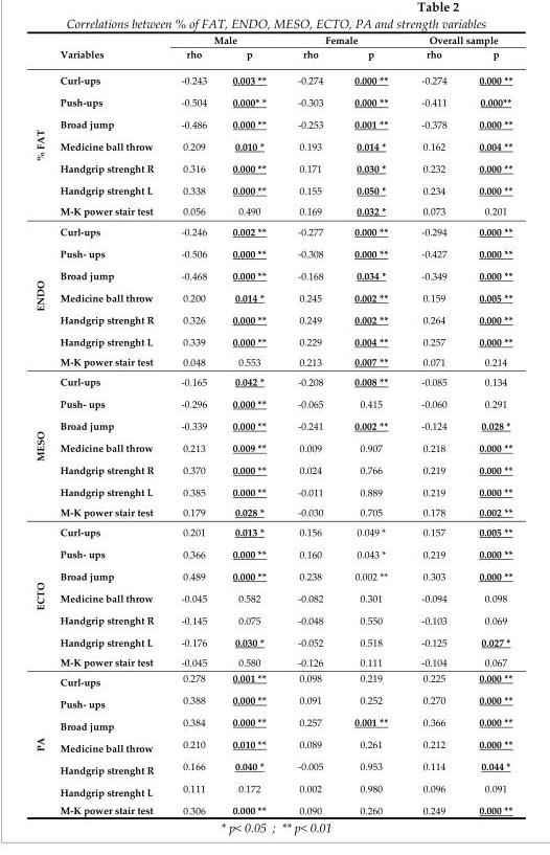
<table><thead><tr><td rowspan="2"></td><td rowspan="2">Variables</td><td colspan="2">Male</td><td colspan="2">Female</td><td colspan="2">Overall sample</td></tr><tr><td>rho</td><td>p</td><td>rho</td><td>p</td><td>rho</td><td>p</td></tr></thead><tbody><tr><td rowspan="7">% FAT</td><td>Curl-ups</td><td>-0.243</td><td>0.003 **</td><td>-0.274</td><td>0.000 **</td><td>-0.274</td><td>0.000 **</td></tr><tr><td>Push-ups</td><td>-0.504</td><td>0.000* *</td><td>-0.303</td><td>0.000 **</td><td>-0.411</td><td>0.000**</td></tr><tr><td>Broad jump</td><td>-0.486</td><td>0.000 **</td><td>-0.253</td><td>0.001 **</td><td>-0.378</td><td>0.000 **</td></tr><tr><td>Medicine ball throw</td><td>0.209</td><td>0.010 *</td><td>0.193</td><td>0.014 *</td><td>0.162</td><td>0.004 **</td></tr><tr><td>Handgrip strenght R</td><td>0.316</td><td>0.000 **</td><td>0.171</td><td>0.030 *</td><td>0.232</td><td>0.000 **</td></tr><tr><td>Handgrip strenght L</td><td>0.338</td><td>0.000 **</td><td>0.155</td><td>0.050 *</td><td>0.234</td><td>0.000 **</td></tr><tr><td>M-K power stair test</td><td>0.056</td><td>0.490</td><td>0.169</td><td>0.032 *</td><td>0.073</td><td>0.201</td></tr><tr><td rowspan="7">ENDO</td><td>Curl-ups</td><td>-0.246</td><td>0.002 **</td><td>-0.277</td><td>0.000 **</td><td>-0.294</td><td>0.000 **</td></tr><tr><td>Push- ups</td><td>-0.506</td><td>0.000 **</td><td>-0.308</td><td>0.000 **</td><td>-0.427</td><td>0.000 **</td></tr><tr><td>Broad jump</td><td>-0.468</td><td>0.000 **</td><td>-0.168</td><td>0.034 *</td><td>-0.349</td><td>0.000 **</td></tr><tr><td>Medicine ball throw</td><td>0.200</td><td>0.014 *</td><td>0.245</td><td>0.002 **</td><td>0.159</td><td>0.005 **</td></tr><tr><td>Handgrip strenght R</td><td>0.326</td><td>0.000 **</td><td>0.249</td><td>0.002 **</td><td>0.264</td><td>0.000 **</td></tr><tr><td>Handgrip strenght L</td><td>0.339</td><td>0.000 **</td><td>0.229</td><td>0.004 **</td><td>0.257</td><td>0.000 **</td></tr><tr><td>M-K power stair test</td><td>0.048</td><td>0.553</td><td>0.213</td><td>0.007 **</td><td>0.071</td><td>0.214</td></tr><tr><td rowspan="7">MESO</td><td>Curl-ups</td><td>-0.165</td><td>0.042 *</td><td>-0.208</td><td>0.008 **</td><td>-0.085</td><td>0.134</td></tr><tr><td>Push- ups</td><td>-0.296</td><td>0.000 **</td><td>-0.065</td><td>0.415</td><td>-0.060</td><td>0.291</td></tr><tr><td>Broad jump</td><td>-0.339</td><td>0.000 **</td><td>-0.241</td><td>0.002 **</td><td>-0.124</td><td>0.028 *</td></tr><tr><td>Medicine ball throw</td><td>0.213</td><td>0.009 **</td><td>0.009</td><td>0.907</td><td>0.218</td><td>0.000 **</td></tr><tr><td>Handgrip strenght R</td><td>0.370</td><td>0.000 **</td><td>0.024</td><td>0.766</td><td>0.219</td><td>0.000 **</td></tr><tr><td>Handgrip strenght L</td><td>0.385</td><td>0.000 **</td><td>-0.011</td><td>0.889</td><td>0.219</td><td>0.000 **</td></tr><tr><td>M-K power stair test</td><td>0.179</td><td>0.028 *</td><td>-0.030</td><td>0.705</td><td>0.178</td><td>0.002 **</td></tr><tr><td rowspan="7">ECTO</td><td>Curl-ups</td><td>0.201</td><td>0.013 *</td><td>0.156</td><td>0.049 *</td><td>0.157</td><td>0.005 **</td></tr><tr><td>Push- ups</td><td>0.366</td><td>0.000 **</td><td>0.160</td><td>0.043 *</td><td>0.219</td><td>0.000 **</td></tr><tr><td>Broad jump</td><td>0.489</td><td>0.000 **</td><td>0.238</td><td>0.002 **</td><td>0.303</td><td>0.000 **</td></tr><tr><td>Medicine ball throw</td><td>-0.045</td><td>0.582</td><td>-0.082</td><td>0.301</td><td>-0.094</td><td>0.098</td></tr><tr><td>Handgrip strenght R</td><td>-0.145</td><td>0.075</td><td>-0.048</td><td>0.550</td><td>-0.103</td><td>0.069</td></tr><tr><td>Handgrip strenght L</td><td>-0.176</td><td>0.030 *</td><td>-0.052</td><td>0.518</td><td>-0.125</td><td>0.027 *</td></tr><tr><td>M-K power stair test</td><td>-0.045</td><td>0.580</td><td>-0.126</td><td>0.111</td><td>-0.104</td><td>0.067</td></tr><tr><td rowspan="7">PA</td><td>Curl-ups</td><td>0.278</td><td>0.001 **</td><td>0.098</td><td>0.219</td><td>0.225</td><td>0.000 **</td></tr><tr><td>Push- ups</td><td>0.388</td><td>0.000 **</td><td>0.091</td><td>0.252</td><td>0.270</td><td>0.000 **</td></tr><tr><td>Broad jump</td><td>0.384</td><td>0.000 **</td><td>0.257</td><td>0.001 **</td><td>0.366</td><td>0.000 **</td></tr><tr><td>Medicine ball throw</td><td>0.210</td><td>0.010 **</td><td>0.089</td><td>0.261</td><td>0.212</td><td>0.000 **</td></tr><tr><td>Handgrip strenght R</td><td>0.166</td><td>0.040 *</td><td>-0.005</td><td>0.953</td><td>0.114</td><td>0.044 *</td></tr><tr><td>Handgrip strenght L</td><td>0.111</td><td>0.172</td><td>0.002</td><td>0.980</td><td>0.096</td><td>0.091</td></tr><tr><td>M-K power stair test</td><td>0.306</td><td>0.000 **</td><td>0.090</td><td>0.260</td><td>0.249</td><td>0.000 **</td></tr></tbody></table>